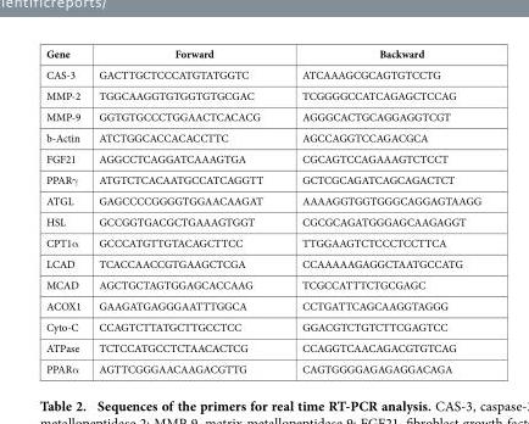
<table><tbody><tr><td>Gene</td><td>Forward</td><td>Backward</td></tr><tr><td>CAS-3</td><td>GACTTGCTCCCATGTATGGTC</td><td>ATCAAAGCGCAGTGTCCTG</td></tr><tr><td>MMP-2</td><td>TGGCAAGGTGTGGTGTGCGAC</td><td>TCGGGGCCATCAGAGCTCCAG</td></tr><tr><td>MMP-9</td><td>GGTGTGCCCTGGAACTCACACG</td><td>AGGGCACTGCAGGAGGTCGT</td></tr><tr><td>b-Actin</td><td>ATCTGGCACCACACCTTC</td><td>AGCCAGGTCCAGACGCA</td></tr><tr><td>FGF21</td><td>AGGCCTCAGGATCAAAGTGA</td><td>CGCAGTCCAGAAAGTCTCCT</td></tr><tr><td>PPARγ</td><td>ATGTCTCACAATGCCATCAGGTT</td><td>GCTCGCAGATCAGCAGACTCT</td></tr><tr><td>ATGL</td><td>GAGCCCCGGGGTGGAACAAGAT</td><td>AAAAGGTGGTGGGCAGGAGTAAGG</td></tr><tr><td>HSL</td><td>GCCGGTGACGCTGAAAGTGGT</td><td>CGCGCAGATGGGAGCAAGAGGT</td></tr><tr><td>CPT1α</td><td>GCCCATGTTGTACAGCTTCC</td><td>TTGGAAGTCTCCCTCCTTCA</td></tr><tr><td>LCAD</td><td>TCACCAACCGTGAAGCTCGA</td><td>CCAAAAAGAGGCTAATGCCATG</td></tr><tr><td>MCAD</td><td>AGCTGCTAGTGGAGCACCAAG</td><td>TCGCCATTTCTGCGAGC</td></tr><tr><td>ACOX1</td><td>GAAGATGAGGGAATTTGGCA</td><td>CCTGATTCAGCAAGGTAGGG</td></tr><tr><td>Cyto-C</td><td>CCAGTCTTATGCTTGCCTCC</td><td>GGACGTCTGTCTTCGAGTCC</td></tr><tr><td>ATPase</td><td>TCTCCATGCCTCTAACACTCG</td><td>CCAGGTCAACAGACGTGTCAG</td></tr><tr><td>PPARα</td><td>AGTTCGGGAACAAGACGTTG</td><td>CAGTGGGGAGAGAGGACAGA</td></tr></tbody></table>